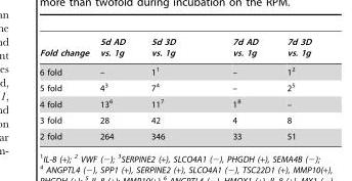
<table><thead><tr><td>Fold change</td><td>5d AD vs. 1g</td><td>5d 3D vs. 1g</td><td>7d AD vs. 1g</td><td>7d 3D vs. 1g</td></tr></thead><tbody><tr><td>6 fold</td><td>–</td><td>1<sup>1</sup></td><td>–</td><td>1<sup>2</sup></td></tr><tr><td>5 fold</td><td>4<sup>3</sup></td><td>7<sup>4</sup></td><td>–</td><td>2<sup>5</sup></td></tr><tr><td>4 fold</td><td>13<sup>6</sup></td><td>11<sup>7</sup></td><td>1<sup>8</sup></td><td>–</td></tr><tr><td>3 fold</td><td>28</td><td>42</td><td>4</td><td>8</td></tr><tr><td>2 fold</td><td>264</td><td>346</td><td>33</td><td>51</td></tr></tbody></table>